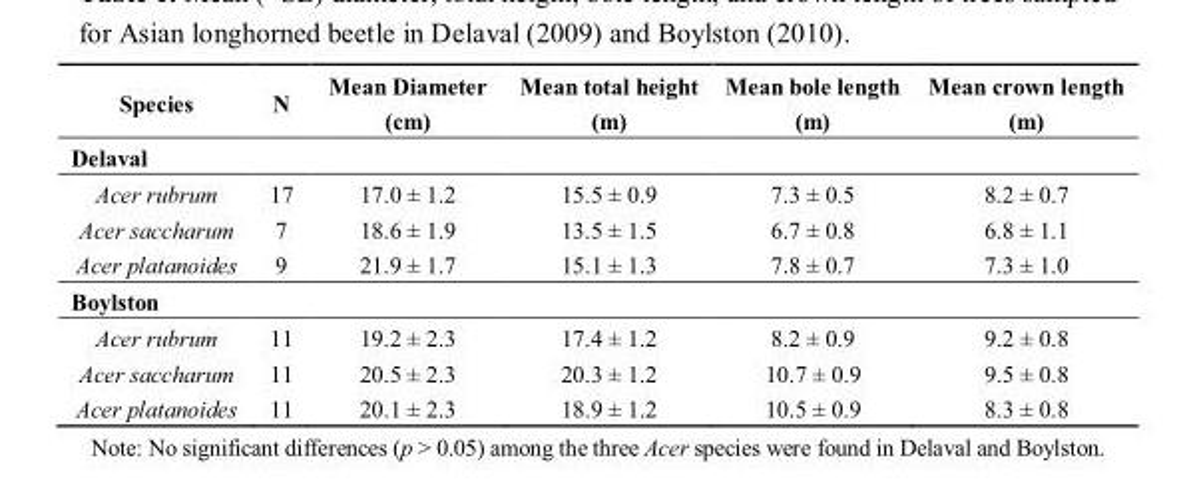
<table><thead><tr><td>Species</td><td>N</td><td>Mean Diameter (cm)</td><td>Mean total height (m)</td><td>Mean bole length (m)</td><td>Mean crown length (m)</td></tr></thead><tbody><tr><td colspan="6">Delaval</td></tr><tr><td>Acer rubrum</td><td>17</td><td>17.0 ± 1.2</td><td>15.5 ± 0.9</td><td>7.3 ± 0.5</td><td>8.2 ± 0.7</td></tr><tr><td>Acer saccharum</td><td>7</td><td>18.6 ± 1.9</td><td>13.5 ± 1.5</td><td>6.7 ± 0.8</td><td>6.8 ± 1.1</td></tr><tr><td>Acer platanoides</td><td>9</td><td>21.9 ± 1.7</td><td>15.1 ± 1.3</td><td>7.8 ± 0.7</td><td>7.3 ± 1.0</td></tr><tr><td colspan="6">Boylston</td></tr><tr><td>Acer rubrum</td><td>11</td><td>19.2 ± 2.3</td><td>17.4 ± 1.2</td><td>8.2 ± 0.9</td><td>9.2 ± 0.8</td></tr><tr><td>Acer saccharum</td><td>11</td><td>20.5 ± 2.3</td><td>20.3 ± 1.2</td><td>10.7 ± 0.9</td><td>9.5 ± 0.8</td></tr><tr><td>Acer platanoides</td><td>11</td><td>20.1 ± 2.3</td><td>18.9 ± 1.2</td><td>10.5 ± 0.9</td><td>8.3 ± 0.8</td></tr></tbody></table>